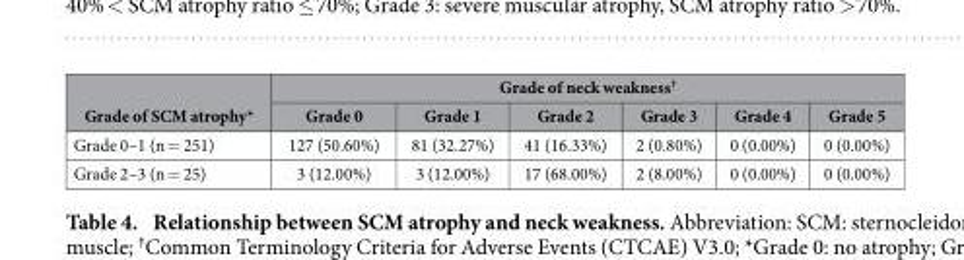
<table><thead><tr><td rowspan="2">Grade of SCM atrophy*</td><td colspan="6">Grade of neck weakness<sup>†</sup></td></tr><tr><td>Grade 0</td><td>Grade 1</td><td>Grade 2</td><td>Grade 3</td><td>Grade 4</td><td>Grade 5</td></tr></thead><tbody><tr><td>Grade 0–1 (n = 251)</td><td>127 (50.60%)</td><td>81 (32.27%)</td><td>41 (16.33%)</td><td>2 (0.80%)</td><td>0 (0.00%)</td><td>0 (0.00%)</td></tr><tr><td>Grade 2–3 (n = 25)</td><td>3 (12.00%)</td><td>3 (12.00%)</td><td>17 (68.00%)</td><td>2 (8.00%)</td><td>0 (0.00%)</td><td>0 (0.00%)</td></tr></tbody></table>